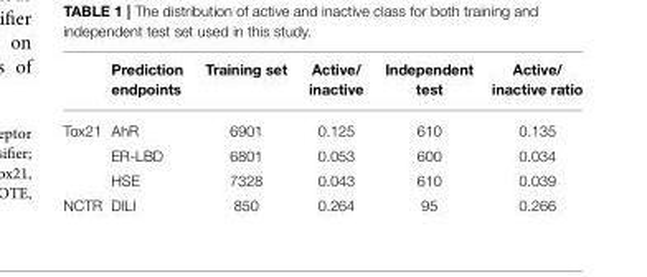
<table><thead><tr><td></td><td>Prediction endpoints</td><td>Training set</td><td>Active/ inactive</td><td>Independent test</td><td>Active/ inactive ratio</td></tr></thead><tbody><tr><td rowspan="3">Tox21</td><td>AhR</td><td>6901</td><td>0.125</td><td>610</td><td>0.135</td></tr><tr><td>ER-LBD</td><td>6801</td><td>0.053</td><td>600</td><td>0.034</td></tr><tr><td>HSE</td><td>7328</td><td>0.043</td><td>610</td><td>0.039</td></tr><tr><td>NCTR</td><td>DILI</td><td>850</td><td>0.264</td><td>95</td><td>0.266</td></tr></tbody></table>